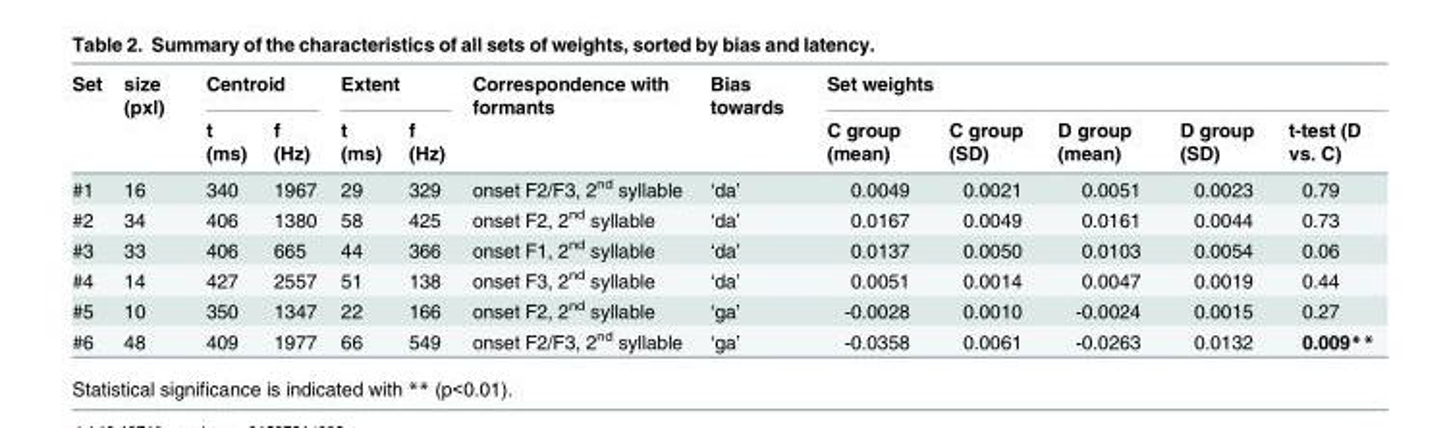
<table><thead><tr><td rowspan="2">Set</td><td rowspan="2">size (pxl)</td><td colspan="2">Centroid</td><td colspan="2">Extent</td><td rowspan="2">Correspondence with formants</td><td rowspan="2">Bias towards</td><td colspan="5">Set weights</td></tr><tr><td>t (ms)</td><td>f (Hz)</td><td>t (ms)</td><td>f (Hz)</td><td>C group (mean)</td><td>C group (SD)</td><td>D group (mean)</td><td>D group (SD)</td><td>t-test (D vs. C)</td></tr></thead><tbody><tr><td>#1</td><td>16</td><td>340</td><td>1967</td><td>29</td><td>329</td><td>onset F2/F3, 2<sup>nd</sup> syllable</td><td>‘da’</td><td>0.0049</td><td>0.0021</td><td>0.0051</td><td>0.0023</td><td>0.79</td></tr><tr><td>#2</td><td>34</td><td>406</td><td>1380</td><td>58</td><td>425</td><td>onset F2, 2<sup>nd</sup> syllable</td><td>‘da’</td><td>0.0167</td><td>0.0049</td><td>0.0161</td><td>0.0044</td><td>0.73</td></tr><tr><td>#3</td><td>33</td><td>406</td><td>665</td><td>44</td><td>366</td><td>onset F1, 2<sup>nd</sup> syllable</td><td>‘da’</td><td>0.0137</td><td>0.0050</td><td>0.0103</td><td>0.0054</td><td>0.06</td></tr><tr><td>#4</td><td>14</td><td>427</td><td>2557</td><td>51</td><td>138</td><td>onset F3, 2<sup>nd</sup> syllable</td><td>‘da’</td><td>0.0051</td><td>0.0014</td><td>0.0047</td><td>0.0019</td><td>0.44</td></tr><tr><td>#5</td><td>10</td><td>350</td><td>1347</td><td>22</td><td>166</td><td>onset F2, 2<sup>nd</sup> syllable</td><td>‘ga’</td><td>-0.0028</td><td>0.0010</td><td>-0.0024</td><td>0.0015</td><td>0.27</td></tr><tr><td>#6</td><td>48</td><td>409</td><td>1977</td><td>66</td><td>549</td><td>onset F2/F3, 2<sup>nd</sup> syllable</td><td>‘ga’</td><td>-0.0358</td><td>0.0061</td><td>-0.0263</td><td>0.0132</td><td>0.009**</td></tr></tbody></table>